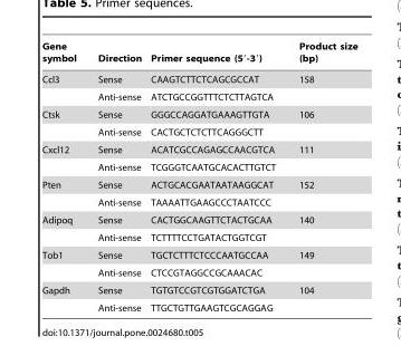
<table><thead><tr><td>Gene symbol</td><td>Direction</td><td>Primer sequence (5′-3′)</td><td>Product size (bp)</td></tr></thead><tbody><tr><td rowspan="2">Ccl3</td><td>Sense</td><td>CAAGTCTTCTCAGCGCCAT</td><td>158</td></tr><tr><td>Anti-sense</td><td>ATCTGCCGGTTTCTCTTAGTCA</td><td></td></tr><tr><td rowspan="2">Ctsk</td><td>Sense</td><td>GGGCCAGGATGAAAGTTGTA</td><td>106</td></tr><tr><td>Anti-sense</td><td>CACTGCTCTCTTCAGGGCTT</td><td></td></tr><tr><td rowspan="2">Cxcl12</td><td>Sense</td><td>ACATCGCCAGAGCCAACGTCA</td><td>111</td></tr><tr><td>Anti-sense</td><td>TCGGGTCAATGCACACTTGTCT</td><td></td></tr><tr><td rowspan="2">Pten</td><td>Sense</td><td>ACTGCACGAATAATAAGGCAT</td><td>152</td></tr><tr><td>Anti-sense</td><td>TAAAATTGAAGCCCTAATCCC</td><td></td></tr><tr><td rowspan="2">Adipoq</td><td>Sense</td><td>CACTGGCAAGTTCTACTGCAA</td><td>140</td></tr><tr><td>Anti-sense</td><td>TCTTTTCCTGATACTGGTCGT</td><td></td></tr><tr><td rowspan="2">Tob1</td><td>Sense</td><td>TGCTCTTTCTCCCAATGCCAA</td><td>149</td></tr><tr><td>Anti-sense</td><td>CTCCGTAGGCCGCAAACAC</td><td></td></tr><tr><td rowspan="2">Gapdh</td><td>Sense</td><td>TGTGTCCGTCGTGGATCTGA</td><td>104</td></tr><tr><td>Anti-sense</td><td>TTGCTGTTGAAGTCGCAGGAG</td><td></td></tr></tbody></table>